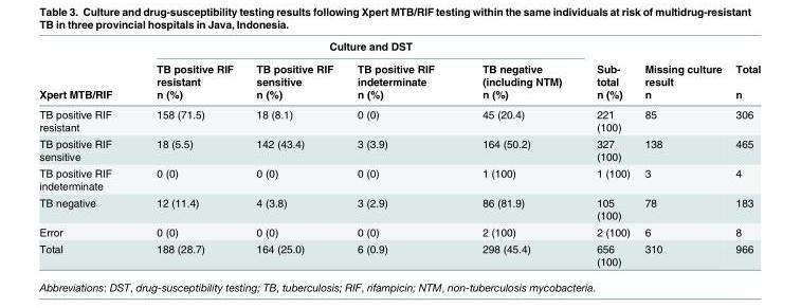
<table><thead><tr><td rowspan="3">Xpert MTB/RIF</td><td colspan="4">Culture and DST</td><td rowspan="3">Sub- total n (%)</td><td rowspan="3">Missing culture result n</td><td rowspan="3">Total n</td></tr><tr><td rowspan="2">TB positive RIF resistant n (%)</td><td rowspan="2">TB positive RIF sensitive n (%)</td><td rowspan="2">TB positive RIF indeterminate n (%)</td><td rowspan="2">TB negative (including NTM) n (%)</td></tr><tr></tr></thead><tbody><tr><td>TB positive RIF resistant</td><td>158 (71.5)</td><td>18 (8.1)</td><td>0 (0)</td><td>45 (20.4)</td><td>221 (100)</td><td>85</td><td>306</td></tr><tr><td>TB positive RIF sensitive</td><td>18 (5.5)</td><td>142 (43.4)</td><td>3 (3.9)</td><td>164 (50.2)</td><td>327 (100)</td><td>138</td><td>465</td></tr><tr><td>TB positive RIF indeterminate</td><td>0 (0)</td><td>0 (0)</td><td>0 (0)</td><td>1 (100)</td><td>1 (100)</td><td>3</td><td>4</td></tr><tr><td>TB negative</td><td>12 (11.4)</td><td>4 (3.8)</td><td>3 (2.9)</td><td>86 (81.9)</td><td>105 (100)</td><td>78</td><td>183</td></tr><tr><td>Error</td><td>0 (0)</td><td>0 (0)</td><td>0 (0)</td><td>2 (100)</td><td>2 (100)</td><td>6</td><td>8</td></tr><tr><td>Total</td><td>188 (28.7)</td><td>164 (25.0)</td><td>6 (0.9)</td><td>298 (45.4)</td><td>656 (100)</td><td>310</td><td>966</td></tr></tbody></table>